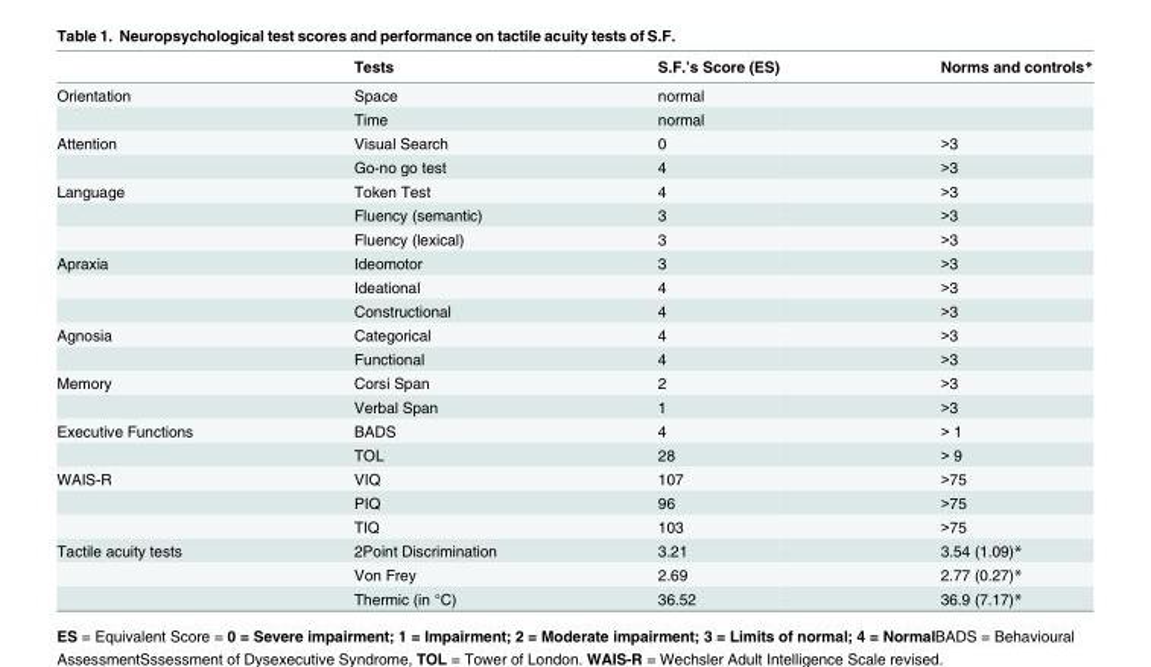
<table><thead><tr><td></td><td>Tests</td><td>S.F.’s Score (ES)</td><td>Norms and controls*</td></tr></thead><tbody><tr><td rowspan="2">Orientation</td><td>Space</td><td>normal</td><td></td></tr><tr><td>Time</td><td>normal</td><td></td></tr><tr><td rowspan="2">Attention</td><td>Visual Search</td><td>0</td><td>&gt;3</td></tr><tr><td>Go-no go test</td><td>4</td><td>&gt;3</td></tr><tr><td rowspan="3">Language</td><td>Token Test</td><td>4</td><td>&gt;3</td></tr><tr><td>Fluency (semantic)</td><td>3</td><td>&gt;3</td></tr><tr><td>Fluency (lexical)</td><td>3</td><td>&gt;3</td></tr><tr><td rowspan="3">Apraxia</td><td>Ideomotor</td><td>3</td><td>&gt;3</td></tr><tr><td>Ideational</td><td>4</td><td>&gt;3</td></tr><tr><td>Constructional</td><td>4</td><td>&gt;3</td></tr><tr><td rowspan="2">Agnosia</td><td>Categorical</td><td>4</td><td>&gt;3</td></tr><tr><td>Functional</td><td>4</td><td>&gt;3</td></tr><tr><td rowspan="2">Memory</td><td>Corsi Span</td><td>2</td><td>&gt;3</td></tr><tr><td>Verbal Span</td><td>1</td><td>&gt;3</td></tr><tr><td rowspan="2">Executive Functions</td><td>BADS</td><td>4</td><td>&gt; 1</td></tr><tr><td>TOL</td><td>28</td><td>&gt; 9</td></tr><tr><td rowspan="3">WAIS-R</td><td>VIQ</td><td>107</td><td>&gt;75</td></tr><tr><td>PIQ</td><td>96</td><td>&gt;75</td></tr><tr><td>TIQ</td><td>103</td><td>&gt;75</td></tr><tr><td rowspan="3">Tactile acuity tests</td><td>2Point Discrimination</td><td>3.21</td><td>3.54 (1.09)*</td></tr><tr><td>Von Frey</td><td>2.69</td><td>2.77 (0.27)*</td></tr><tr><td>Thermic (in °C)</td><td>36.52</td><td>36.9 (7.17)*</td></tr></tbody></table>